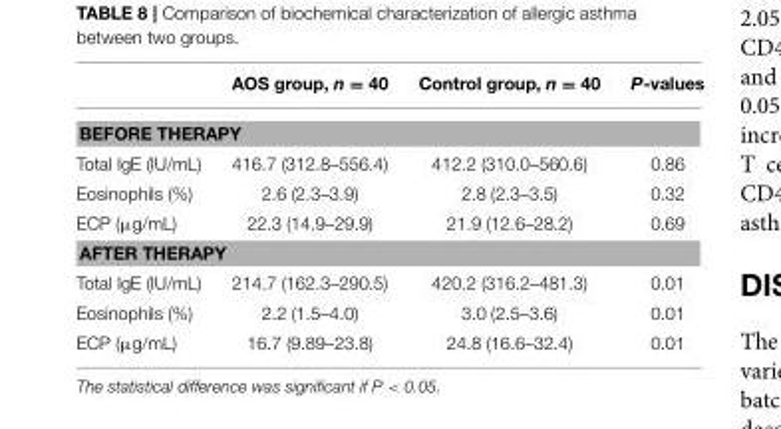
<table><thead><tr><td></td><td>AOS group, n = 40</td><td>Control group, n = 40</td><td>P-values</td></tr></thead><tbody><tr><td colspan="4">BEFORE THERAPY</td></tr><tr><td>Total IgE (IU/mL)</td><td>416.7 (312.8–556.4)</td><td>412.2 (310.0–560.6)</td><td>0.86</td></tr><tr><td>Eosinophils (%)</td><td>2.6 (2.3–3.9)</td><td>2.8 (2.3–3.5)</td><td>0.32</td></tr><tr><td>ECP (µg/mL)</td><td>22.3 (14.9–29.9)</td><td>21.9 (12.6–28.2)</td><td>0.69</td></tr><tr><td colspan="4">AFTER THERAPY</td></tr><tr><td>Total IgE (IU/mL)</td><td>214.7 (162.3–290.5)</td><td>420.2 (316.2–481.3)</td><td>0.01</td></tr><tr><td>Eosinophils (%)</td><td>2.2 (1.5–4.0)</td><td>3.0 (2.5–3.6)</td><td>0.01</td></tr><tr><td>ECP (µg/mL)</td><td>16.7 (9.89–23.8)</td><td>24.8 (16.6–32.4)</td><td>0.01</td></tr></tbody></table>